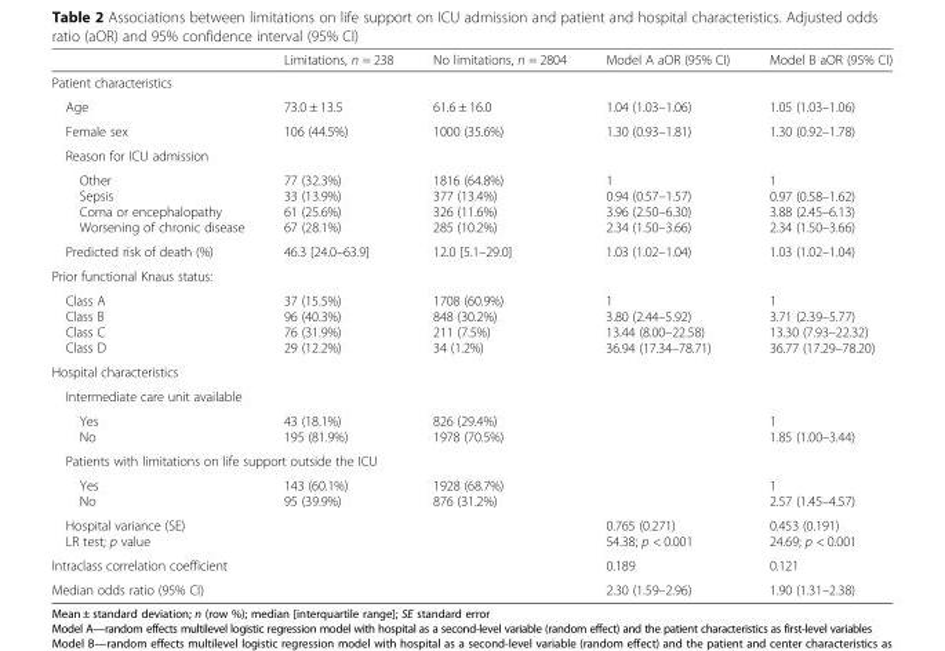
<table><thead><tr><td></td><td>Limitations, n = 238</td><td>No limitations, n = 2804</td><td>Model A aOR (95% CI)</td><td>Model B aOR (95% CI)</td></tr></thead><tbody><tr><td colspan="5">Patient characteristics</td></tr><tr><td>Age</td><td>73.0 ± 13.5</td><td>61.6 ± 16.0</td><td>1.04 (1.03–1.06)</td><td>1.05 (1.03–1.06)</td></tr><tr><td>Female sex</td><td>106 (44.5%)</td><td>1000 (35.6%)</td><td>1.30 (0.93–1.81)</td><td>1.30 (0.92–1.78)</td></tr><tr><td colspan="5">Reason for ICU admission</td></tr><tr><td>Other Sepsis Coma or encephalopathy Worsening of chronic disease</td><td>77 (32.3%) 33 (13.9%) 61 (25.6%) 67 (28.1%)</td><td>1816 (64.8%) 377 (13.4%) 326 (11.6%) 285 (10.2%)</td><td>1 0.94 (0.57–1.57) 3.96 (2.50–6.30) 2.34 (1.50–3.66)</td><td>1 0.97 (0.58–1.62) 3.88 (2.45–6.13) 2.34 (1.50–3.66)</td></tr><tr><td>Predicted risk of death (%)</td><td>46.3 [24.0–63.9]</td><td>12.0 [5.1–29.0]</td><td>1.03 (1.02–1.04)</td><td>1.03 (1.02–1.04)</td></tr><tr><td colspan="5">Prior functional Knaus status:</td></tr><tr><td>Class A Class B Class C Class D</td><td>37 (15.5%) 96 (40.3%) 76 (31.9%) 29 (12.2%)</td><td>1708 (60.9%) 848 (30.2%) 211 (7.5%) 34 (1.2%)</td><td>1 3.80 (2.44–5.92) 13.44 (8.00–22.58) 36.94 (17.34–78.71)</td><td>1 3.71 (2.39–5.77) 13.30 (7.93–22.32) 36.77 (17.29–78.20)</td></tr><tr><td colspan="5">Hospital characteristics</td></tr><tr><td colspan="5">Intermediate care unit available</td></tr><tr><td>Yes No</td><td>43 (18.1%) 195 (81.9%)</td><td>826 (29.4%) 1978 (70.5%)</td><td></td><td>1 1.85 (1.00–3.44)</td></tr><tr><td colspan="5">Patients with limitations on life support outside the ICU</td></tr><tr><td>Yes No</td><td>143 (60.1%) 95 (39.9%)</td><td>1928 (68.7%) 876 (31.2%)</td><td></td><td>1 2.57 (1.45–4.57)</td></tr><tr><td>Hospital variance (SE) LR test; p value</td><td></td><td></td><td>0.765 (0.271) 54.38; p &lt; 0.001</td><td>0.453 (0.191) 24.69; p &lt; 0.001</td></tr><tr><td colspan="2">Intraclass correlation coefficient</td><td></td><td>0.189</td><td>0.121</td></tr><tr><td colspan="2">Median odds ratio (95% CI)</td><td></td><td>2.30 (1.59–2.96)</td><td>1.90 (1.31–2.38)</td></tr></tbody></table>